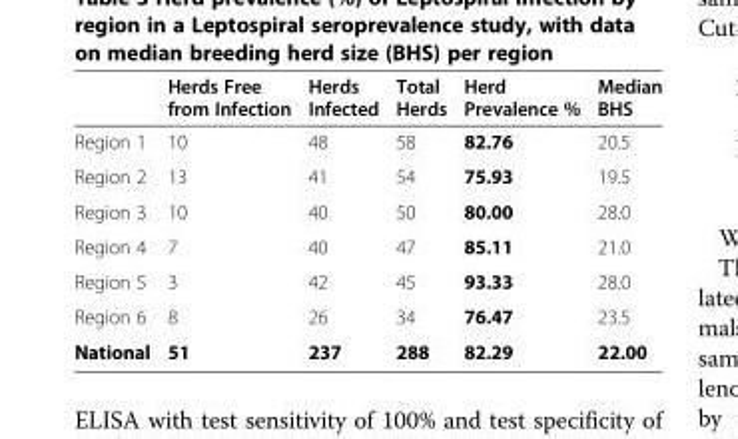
<table><thead><tr><td></td><td>Herds Free from Infection</td><td>Herds Infected</td><td>Total Herds</td><td>Herd Prevalence %</td><td>Median BHS</td></tr></thead><tbody><tr><td>Region 1</td><td>10</td><td>48</td><td>58</td><td>82.76</td><td>20.5</td></tr><tr><td>Region 2</td><td>13</td><td>41</td><td>54</td><td>75.93</td><td>19.5</td></tr><tr><td>Region 3</td><td>10</td><td>40</td><td>50</td><td>80.00</td><td>28.0</td></tr><tr><td>Region 4</td><td>7</td><td>40</td><td>47</td><td>85.11</td><td>21.0</td></tr><tr><td>Region 5</td><td>3</td><td>42</td><td>45</td><td>93.33</td><td>28.0</td></tr><tr><td>Region 6</td><td>8</td><td>26</td><td>34</td><td>76.47</td><td>23.5</td></tr><tr><td>National</td><td>51</td><td>237</td><td>288</td><td>82.29</td><td>22.00</td></tr></tbody></table>